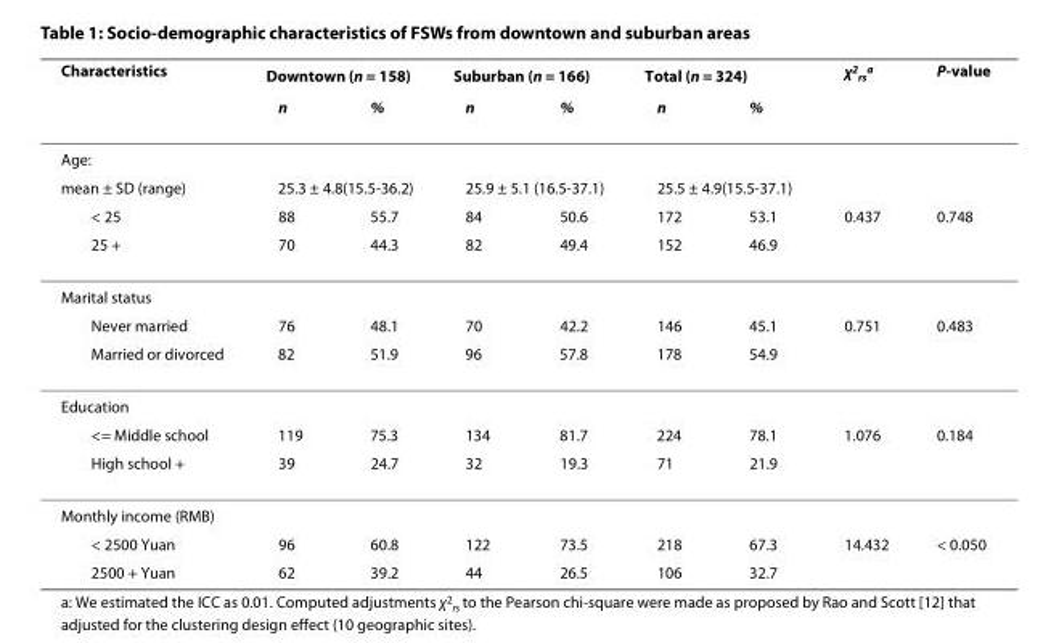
<table><thead><tr><td rowspan="2">Characteristics</td><td colspan="2">Downtown (n = 158)</td><td colspan="2">Suburban (n = 166)</td><td colspan="2">Total (n = 324)</td><td rowspan="2">χ<sup>2</sup><sub>rs</sub><sup>a</sup></td><td rowspan="2">P-value</td></tr><tr><td>n</td><td>%</td><td>n</td><td>%</td><td>n</td><td>%</td></tr></thead><tbody><tr><td colspan="9">Age:</td></tr><tr><td>mean ± SD (range)</td><td colspan="2">25.3 ± 4.8(15.5-36.2)</td><td colspan="2">25.9 ± 5.1 (16.5-37.1)</td><td colspan="2">25.5 ± 4.9(15.5-37.1)</td><td></td><td></td></tr><tr><td>&lt; 25</td><td>88</td><td>55.7</td><td>84</td><td>50.6</td><td>172</td><td>53.1</td><td>0.437</td><td>0.748</td></tr><tr><td>25 +</td><td>70</td><td>44.3</td><td>82</td><td>49.4</td><td>152</td><td>46.9</td><td></td><td></td></tr><tr><td colspan="9">Marital status</td></tr><tr><td>Never married</td><td>76</td><td>48.1</td><td>70</td><td>42.2</td><td>146</td><td>45.1</td><td>0.751</td><td>0.483</td></tr><tr><td>Married or divorced</td><td>82</td><td>51.9</td><td>96</td><td>57.8</td><td>178</td><td>54.9</td><td></td><td></td></tr><tr><td colspan="9">Education</td></tr><tr><td>&lt;= Middle school</td><td>119</td><td>75.3</td><td>134</td><td>81.7</td><td>224</td><td>78.1</td><td>1.076</td><td>0.184</td></tr><tr><td>High school +</td><td>39</td><td>24.7</td><td>32</td><td>19.3</td><td>71</td><td>21.9</td><td></td><td></td></tr><tr><td colspan="9">Monthly income (RMB)</td></tr><tr><td>&lt; 2500 Yuan</td><td>96</td><td>60.8</td><td>122</td><td>73.5</td><td>218</td><td>67.3</td><td>14.432</td><td>&lt; 0.050</td></tr><tr><td>2500 + Yuan</td><td>62</td><td>39.2</td><td>44</td><td>26.5</td><td>106</td><td>32.7</td><td></td><td></td></tr></tbody></table>